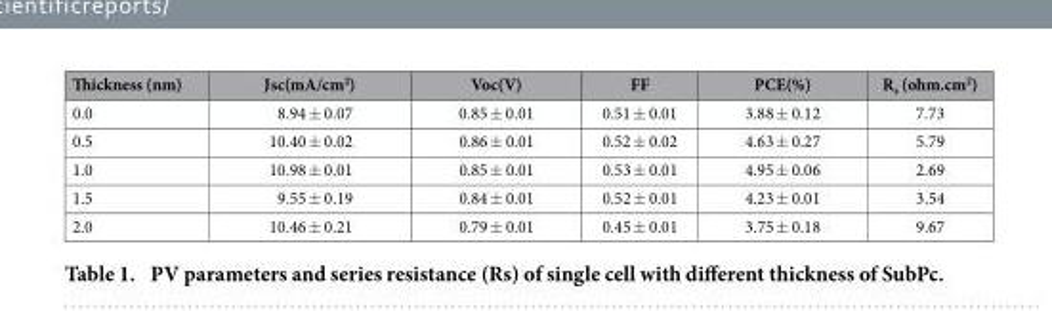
<table><thead><tr><td>Thickness (nm)</td><td>Jsc(mA/cm<sup>2</sup>)</td><td>Voc(V)</td><td>FF</td><td>PCE(%)</td><td>R<sub>s</sub> (ohm.cm<sup>2</sup>)</td></tr></thead><tbody><tr><td>0.0</td><td>8.94 ± 0.07</td><td>0.85 ± 0.01</td><td>0.51 ± 0.01</td><td>3.88 ± 0.12</td><td>7.73</td></tr><tr><td>0.5</td><td>10.40 ± 0.02</td><td>0.86 ± 0.01</td><td>0.52 ± 0.02</td><td>4.63 ± 0.27</td><td>5.79</td></tr><tr><td>1.0</td><td>10.98 ± 0.01</td><td>0.85 ± 0.01</td><td>0.53 ± 0.01</td><td>4.95 ± 0.06</td><td>2.69</td></tr><tr><td>1.5</td><td>9.55 ± 0.19</td><td>0.84 ± 0.01</td><td>0.52 ± 0.01</td><td>4.23 ± 0.01</td><td>3.54</td></tr><tr><td>2.0</td><td>10.46 ± 0.21</td><td>0.79 ± 0.01</td><td>0.45 ± 0.01</td><td>3.75 ± 0.18</td><td>9.67</td></tr></tbody></table>